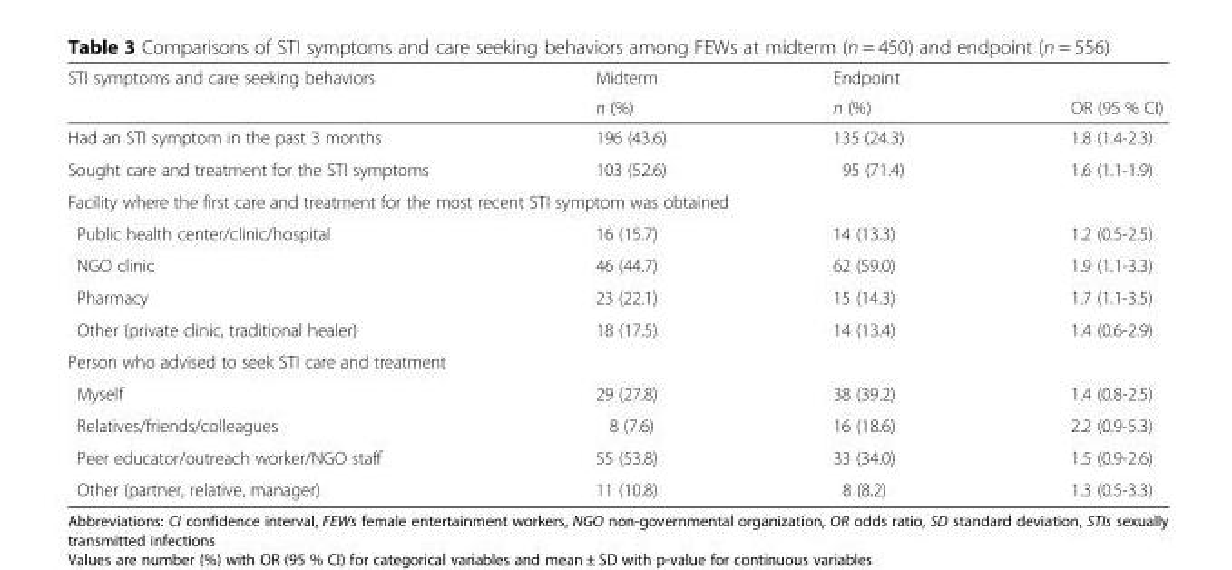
<table><thead><tr><td rowspan="2">STI symptoms and care seeking behaviors</td><td rowspan="2">Midterm n (%)</td><td rowspan="2">Endpoint n (%)</td><td rowspan="2">OR (95 % CI)</td></tr><tr></tr></thead><tbody><tr><td>Had an STI symptom in the past 3 months</td><td>196 (43.6)</td><td>135 (24.3)</td><td>1.8 (1.4-2.3)</td></tr><tr><td>Sought care and treatment for the STI symptoms</td><td>103 (52.6)</td><td>95 (71.4)</td><td>1.6 (1.1-1.9)</td></tr><tr><td colspan="4">Facility where the first care and treatment for the most recent STI symptom was obtained</td></tr><tr><td>Public health center/clinic/hospital</td><td>16 (15.7)</td><td>14 (13.3)</td><td>1.2 (0.5-2.5)</td></tr><tr><td>NGO clinic</td><td>46 (44.7)</td><td>62 (59.0)</td><td>1.9 (1.1-3.3)</td></tr><tr><td>Pharmacy</td><td>23 (22.1)</td><td>15 (14.3)</td><td>1.7 (1.1-3.5)</td></tr><tr><td>Other (private clinic, traditional healer)</td><td>18 (17.5)</td><td>14 (13.4)</td><td>1.4 (0.6-2.9)</td></tr><tr><td colspan="4">Person who advised to seek STI care and treatment</td></tr><tr><td>Myself</td><td>29 (27.8)</td><td>38 (39.2)</td><td>1.4 (0.8-2.5)</td></tr><tr><td>Relatives/friends/colleagues</td><td>8 (7.6)</td><td>16 (18.6)</td><td>2.2 (0.9-5.3)</td></tr><tr><td>Peer educator/outreach worker/NGO staff</td><td>55 (53.8)</td><td>33 (34.0)</td><td>1.5 (0.9-2.6)</td></tr><tr><td>Other (partner, relative, manager)</td><td>11 (10.8)</td><td>8 (8.2)</td><td>1.3 (0.5-3.3)</td></tr></tbody></table>